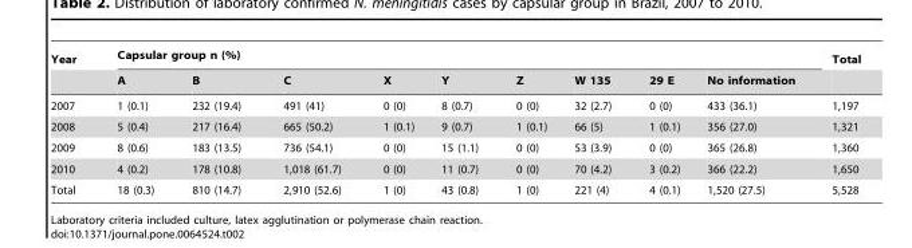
<table><thead><tr><td rowspan="2">Year</td><td colspan="9">Capsular group n (%)</td><td rowspan="2">Total</td></tr><tr><td>A</td><td>B</td><td>C</td><td>X</td><td>Y</td><td>Z</td><td>W 135</td><td>29 E</td><td>No information</td></tr></thead><tbody><tr><td>2007</td><td>1 (0.1)</td><td>232 (19.4)</td><td>491 (41)</td><td>0 (0)</td><td>8 (0.7)</td><td>0 (0)</td><td>32 (2.7)</td><td>0 (0)</td><td>433 (36.1)</td><td>1,197</td></tr><tr><td>2008</td><td>5 (0.4)</td><td>217 (16.4)</td><td>665 (50.2)</td><td>1 (0.1)</td><td>9 (0.7)</td><td>1 (0.1)</td><td>66 (5)</td><td>1 (0.1)</td><td>356 (27.0)</td><td>1,321</td></tr><tr><td>2009</td><td>8 (0.6)</td><td>183 (13.5)</td><td>736 (54.1)</td><td>0 (0)</td><td>15 (1.1)</td><td>0 (0)</td><td>53 (3.9)</td><td>0 (0)</td><td>365 (26.8)</td><td>1,360</td></tr><tr><td>2010</td><td>4 (0.2)</td><td>178 (10.8)</td><td>1,018 (61.7)</td><td>0 (0)</td><td>11 (0.7)</td><td>0 (0)</td><td>70 (4.2)</td><td>3 (0.2)</td><td>366 (22.2)</td><td>1,650</td></tr><tr><td>Total</td><td>18 (0.3)</td><td>810 (14.7)</td><td>2,910 (52.6)</td><td>1 (0)</td><td>43 (0.8)</td><td>1 (0)</td><td>221 (4)</td><td>4 (0.1)</td><td>1,520 (27.5)</td><td>5,528</td></tr></tbody></table>